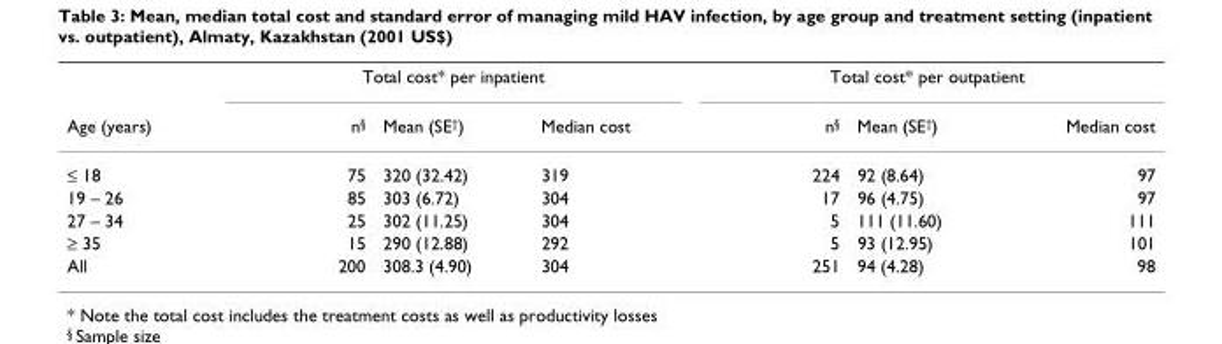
<table><thead><tr><td rowspan="2">Age (years)</td><td colspan="3">Total cost* per inpatient</td><td colspan="3">Total cost* per outpatient</td></tr><tr><td>n<sup>§</sup></td><td>Mean (SE<sup>†</sup>)</td><td>Median cost</td><td>n<sup>§</sup></td><td>Mean (SE<sup>†</sup>)</td><td>Median cost</td></tr></thead><tbody><tr><td>≤ 18</td><td>75</td><td>320 (32.42)</td><td>319</td><td>224</td><td>92 (8.64)</td><td>97</td></tr><tr><td>19 – 26</td><td>85</td><td>303 (6.72)</td><td>304</td><td>17</td><td>96 (4.75)</td><td>97</td></tr><tr><td>27 – 34</td><td>25</td><td>302 (11.25)</td><td>304</td><td>5</td><td>111 (11.60)</td><td>111</td></tr><tr><td>≥ 35</td><td>15</td><td>290 (12.88)</td><td>292</td><td>5</td><td>93 (12.95)</td><td>101</td></tr><tr><td>All</td><td>200</td><td>308.3 (4.90)</td><td>304</td><td>251</td><td>94 (4.28)</td><td>98</td></tr></tbody></table>